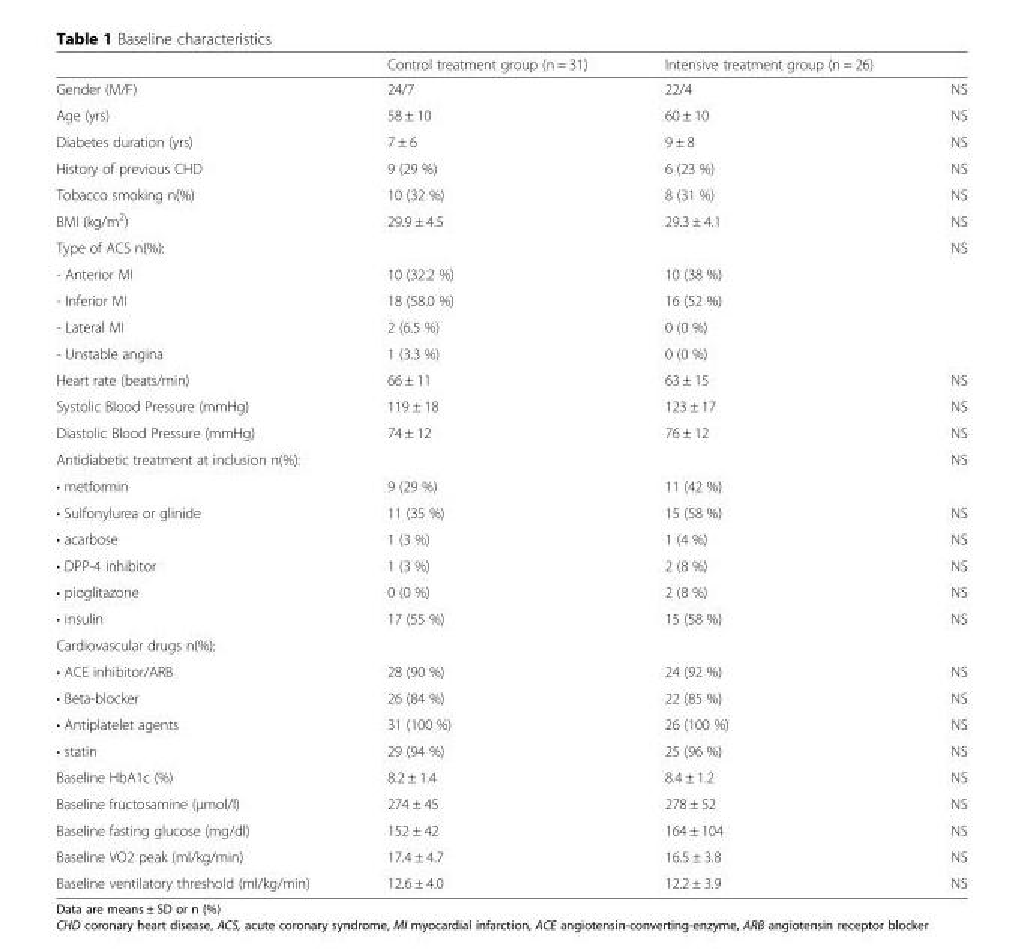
<table><thead><tr><td></td><td>Control treatment group (n = 31)</td><td>Intensive treatment group (n = 26)</td><td></td></tr></thead><tbody><tr><td>Gender (M/F)</td><td>24/7</td><td>22/4</td><td>NS</td></tr><tr><td>Age (yrs)</td><td>58 ± 10</td><td>60 ± 10</td><td>NS</td></tr><tr><td>Diabetes duration (yrs)</td><td>7 ± 6</td><td>9 ± 8</td><td>NS</td></tr><tr><td>History of previous CHD</td><td>9 (29 %)</td><td>6 (23 %)</td><td>NS</td></tr><tr><td>Tobacco smoking n(%)</td><td>10 (32 %)</td><td>8 (31 %)</td><td>NS</td></tr><tr><td>BMI (kg/m<sup>2</sup>)</td><td>29.9 ± 4.5</td><td>29.3 ± 4.1</td><td>NS</td></tr><tr><td colspan="3">Type of ACS n(%):</td><td rowspan="5">NS</td></tr><tr><td>- Anterior MI</td><td>10 (32.2 %)</td><td>10 (38 %)</td></tr><tr><td>- Inferior MI</td><td>18 (58.0 %)</td><td>16 (52 %)</td></tr><tr><td>- Lateral MI</td><td>2 (6.5 %)</td><td>0 (0 %)</td></tr><tr><td>- Unstable angina</td><td>1 (3.3 %)</td><td>0 (0 %)</td></tr><tr><td>Heart rate (beats/min)</td><td>66 ± 11</td><td>63 ± 15</td><td>NS</td></tr><tr><td>Systolic Blood Pressure (mmHg)</td><td>119 ± 18</td><td>123 ± 17</td><td>NS</td></tr><tr><td>Diastolic Blood Pressure (mmHg)</td><td>74 ± 12</td><td>76 ± 12</td><td>NS</td></tr><tr><td colspan="3">Antidiabetic treatment at inclusion n(%):</td><td rowspan="2">NS</td></tr><tr><td>• metformin</td><td>9 (29 %)</td><td>11 (42 %)</td></tr><tr><td>• Sulfonylurea or glinide</td><td>11 (35 %)</td><td>15 (58 %)</td><td>NS</td></tr><tr><td>• acarbose</td><td>1 (3 %)</td><td>1 (4 %)</td><td>NS</td></tr><tr><td>• DPP-4 inhibitor</td><td>1 (3 %)</td><td>2 (8 %)</td><td>NS</td></tr><tr><td>• pioglitazone</td><td>0 (0 %)</td><td>2 (8 %)</td><td>NS</td></tr><tr><td>• insulin</td><td>17 (55 %)</td><td>15 (58 %)</td><td>NS</td></tr><tr><td colspan="4">Cardiovascular drugs n(%):</td></tr><tr><td>• ACE inhibitor/ARB</td><td>28 (90 %)</td><td>24 (92 %)</td><td>NS</td></tr><tr><td>• Beta-blocker</td><td>26 (84 %)</td><td>22 (85 %)</td><td>NS</td></tr><tr><td>• Antiplatelet agents</td><td>31 (100 %)</td><td>26 (100 %)</td><td>NS</td></tr><tr><td>• statin</td><td>29 (94 %)</td><td>25 (96 %)</td><td>NS</td></tr><tr><td>Baseline HbA1c (%)</td><td>8.2 ± 1.4</td><td>8.4 ± 1.2</td><td>NS</td></tr><tr><td>Baseline fructosamine (μmol/l)</td><td>274 ± 45</td><td>278 ± 52</td><td>NS</td></tr><tr><td>Baseline fasting glucose (mg/dl)</td><td>152 ± 42</td><td>164 ± 104</td><td>NS</td></tr><tr><td>Baseline VO2 peak (ml/kg/min)</td><td>17.4 ± 4.7</td><td>16.5 ± 3.8</td><td>NS</td></tr><tr><td>Baseline ventilatory threshold (ml/kg/min)</td><td>12.6 ± 4.0</td><td>12.2 ± 3.9</td><td>NS</td></tr></tbody></table>